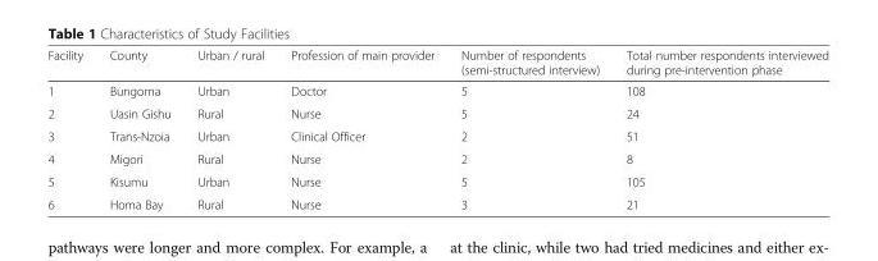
<table><thead><tr><td>Facility</td><td>County</td><td>Urban / rural</td><td>Profession of main provider</td><td>Number of respondents (semi-structured interview)</td><td>Total number respondents interviewed during pre-intervention phase</td></tr></thead><tbody><tr><td>1</td><td>Bungoma</td><td>Urban</td><td>Doctor</td><td>5</td><td>108</td></tr><tr><td>2</td><td>Uasin Gishu</td><td>Rural</td><td>Nurse</td><td>5</td><td>24</td></tr><tr><td>3</td><td>Trans-Nzoia</td><td>Urban</td><td>Clinical Officer</td><td>2</td><td>51</td></tr><tr><td>4</td><td>Migori</td><td>Rural</td><td>Nurse</td><td>2</td><td>8</td></tr><tr><td>5</td><td>Kisumu</td><td>Urban</td><td>Nurse</td><td>5</td><td>105</td></tr><tr><td>6</td><td>Homa Bay</td><td>Rural</td><td>Nurse</td><td>3</td><td>21</td></tr></tbody></table>